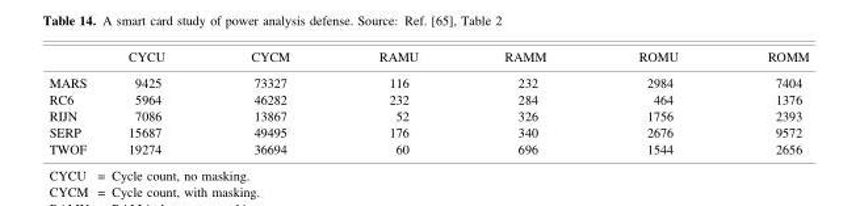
<table><thead><tr><td></td><td>CYCU</td><td>CYCM</td><td>RAMU</td><td>RAMM</td><td>ROMU</td><td>ROMM</td></tr></thead><tbody><tr><td>MARS</td><td>9425</td><td>73327</td><td>116</td><td>232</td><td>2984</td><td>7404</td></tr><tr><td>RC6</td><td>5964</td><td>46282</td><td>232</td><td>284</td><td>464</td><td>1376</td></tr><tr><td>RIJN</td><td>7086</td><td>13867</td><td>52</td><td>326</td><td>1756</td><td>2393</td></tr><tr><td>SERP</td><td>15687</td><td>49495</td><td>176</td><td>340</td><td>2676</td><td>9572</td></tr><tr><td>TWOF</td><td>19274</td><td>36694</td><td>60</td><td>696</td><td>1544</td><td>2656</td></tr></tbody></table>